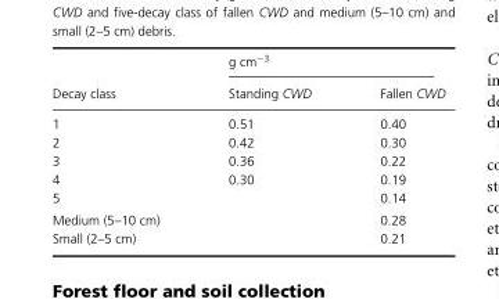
<table><thead><tr><td rowspan="2">Decay class</td><td colspan="2">g cm<sup>−3</sup></td></tr><tr><td>Standing CWD</td><td>Fallen CWD</td></tr></thead><tbody><tr><td>1</td><td>0.51</td><td>0.40</td></tr><tr><td>2</td><td>0.42</td><td>0.30</td></tr><tr><td>3</td><td>0.36</td><td>0.22</td></tr><tr><td>4</td><td>0.30</td><td>0.19</td></tr><tr><td>5</td><td></td><td>0.14</td></tr><tr><td>Medium (5–10 cm)</td><td></td><td>0.28</td></tr><tr><td>Small (2–5 cm)</td><td></td><td>0.21</td></tr></tbody></table>